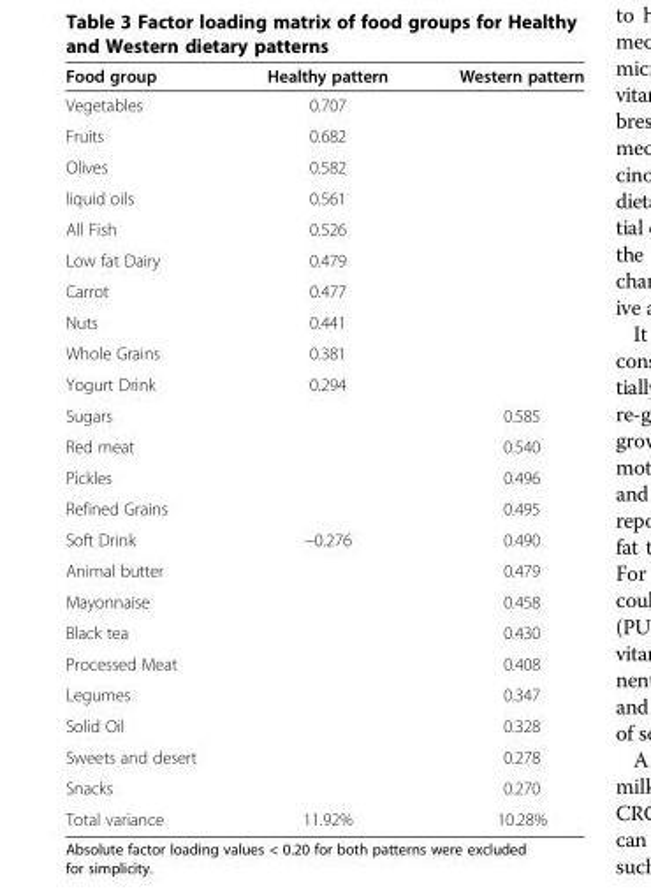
<table><thead><tr><td>Food group</td><td>Healthy pattern</td><td>Western pattern</td></tr></thead><tbody><tr><td>Vegetables</td><td>0.707</td><td></td></tr><tr><td>Fruits</td><td>0.682</td><td></td></tr><tr><td>Olives</td><td>0.582</td><td></td></tr><tr><td>liquid oils</td><td>0.561</td><td></td></tr><tr><td>All Fish</td><td>0.526</td><td></td></tr><tr><td>Low fat Dairy</td><td>0.479</td><td></td></tr><tr><td>Carrot</td><td>0.477</td><td></td></tr><tr><td>Nuts</td><td>0.441</td><td></td></tr><tr><td>Whole Grains</td><td>0.381</td><td></td></tr><tr><td>Yogurt Drink</td><td>0.294</td><td></td></tr><tr><td>Sugars</td><td></td><td>0.585</td></tr><tr><td>Red meat</td><td></td><td>0.540</td></tr><tr><td>Pickles</td><td></td><td>0.496</td></tr><tr><td>Refined Grains</td><td></td><td>0.495</td></tr><tr><td>Soft Drink</td><td>−0.276</td><td>0.490</td></tr><tr><td>Animal butter</td><td></td><td>0.479</td></tr><tr><td>Mayonnaise</td><td></td><td>0.458</td></tr><tr><td>Black tea</td><td></td><td>0.430</td></tr><tr><td>Processed Meat</td><td></td><td>0.408</td></tr><tr><td>Legumes</td><td></td><td>0.347</td></tr><tr><td>Solid Oil</td><td></td><td>0.328</td></tr><tr><td>Sweets and desert</td><td></td><td>0.278</td></tr><tr><td>Snacks</td><td></td><td>0.270</td></tr><tr><td>Total variance</td><td>11.92%</td><td>10.28%</td></tr></tbody></table>